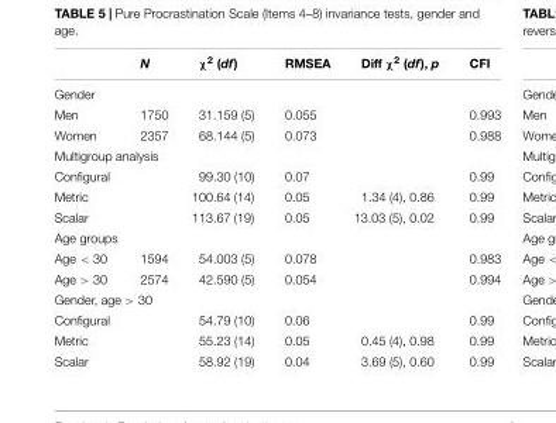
<table><thead><tr><td></td><td>N</td><td>χ<sup>2</sup> (df)</td><td>RMSEA</td><td>Diff χ<sup>2</sup> (df), p</td><td>CFI</td></tr></thead><tbody><tr><td colspan="6">Gender</td></tr><tr><td>Men</td><td>1750</td><td>31.159 (5)</td><td>0.055</td><td></td><td>0.993</td></tr><tr><td>Women</td><td>2357</td><td>68.144 (5)</td><td>0.073</td><td></td><td>0.988</td></tr><tr><td colspan="6">Multigroup analysis</td></tr><tr><td>Configural</td><td></td><td>99.30 (10)</td><td>0.07</td><td></td><td>0.99</td></tr><tr><td>Metric</td><td></td><td>100.64 (14)</td><td>0.05</td><td>1.34 (4), 0.86</td><td>0.99</td></tr><tr><td>Scalar</td><td></td><td>113.67 (19)</td><td>0.05</td><td>13.03 (5), 0.02</td><td>0.99</td></tr><tr><td colspan="6">Age groups</td></tr><tr><td>Age &lt; 30</td><td>1594</td><td>54.003 (5)</td><td>0.078</td><td></td><td>0.983</td></tr><tr><td>Age &gt; 30</td><td>2574</td><td>42.590 (5)</td><td>0.054</td><td></td><td>0.994</td></tr><tr><td colspan="6">Gender, age &gt; 30</td></tr><tr><td>Configural</td><td></td><td>54.79 (10)</td><td>0.06</td><td></td><td>0.99</td></tr><tr><td>Metric</td><td></td><td>55.23 (14)</td><td>0.05</td><td>0.45 (4), 0.98</td><td>0.99</td></tr><tr><td>Scalar</td><td></td><td>58.92 (19)</td><td>0.04</td><td>3.69 (5), 0.60</td><td>0.99</td></tr></tbody></table>